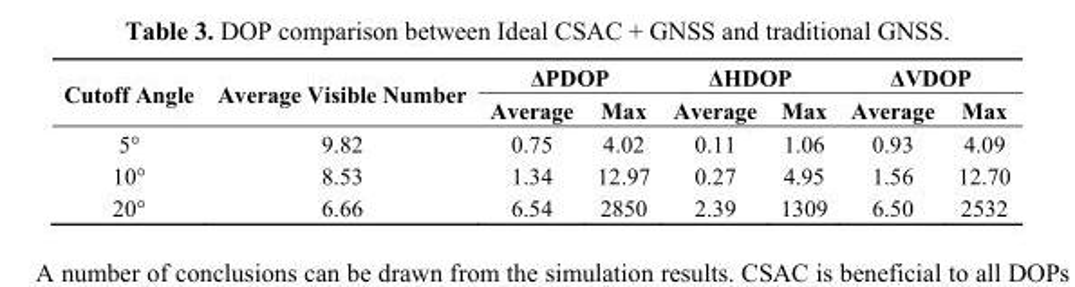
<table><thead><tr><td rowspan="2">Cutoff Angle</td><td rowspan="2">Average Visible Number</td><td colspan="2">ΔPDOP</td><td colspan="2">ΔHDOP</td><td colspan="2">ΔVDOP</td></tr><tr><td>Average</td><td>Max</td><td>Average</td><td>Max</td><td>Average</td><td>Max</td></tr></thead><tbody><tr><td>5°</td><td>9.82</td><td>0.75</td><td>4.02</td><td>0.11</td><td>1.06</td><td>0.93</td><td>4.09</td></tr><tr><td>10°</td><td>8.53</td><td>1.34</td><td>12.97</td><td>0.27</td><td>4.95</td><td>1.56</td><td>12.70</td></tr><tr><td>20°</td><td>6.66</td><td>6.54</td><td>2850</td><td>2.39</td><td>1309</td><td>6.50</td><td>2532</td></tr></tbody></table>